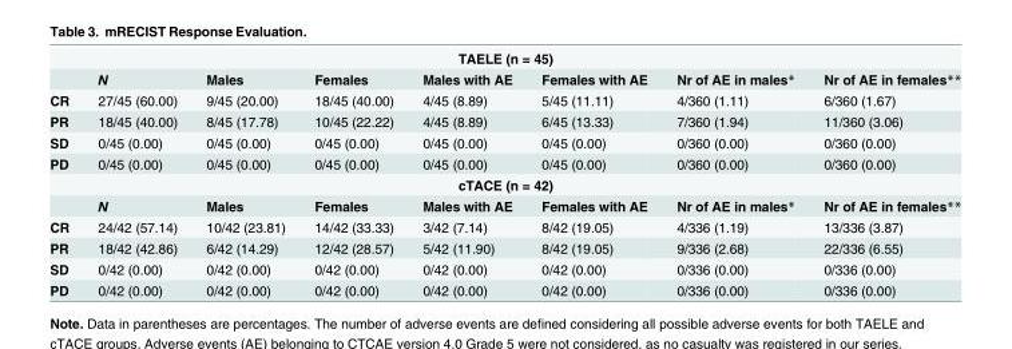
<table><tbody><tr><td colspan="8">TAELE (n = 45)</td></tr><tr><td></td><td>N</td><td>Males</td><td>Females</td><td>Males with AE</td><td>Females with AE</td><td>Nr of AE in males*</td><td>Nr of AE in females**</td></tr><tr><td>CR</td><td>27/45 (60.00)</td><td>9/45 (20.00)</td><td>18/45 (40.00)</td><td>4/45 (8.89)</td><td>5/45 (11.11)</td><td>4/360 (1.11)</td><td>6/360 (1.67)</td></tr><tr><td>PR</td><td>18/45 (40.00)</td><td>8/45 (17.78)</td><td>10/45 (22.22)</td><td>4/45 (8.89)</td><td>6/45 (13.33)</td><td>7/360 (1.94)</td><td>11/360 (3.06)</td></tr><tr><td>SD</td><td>0/45 (0.00)</td><td>0/45 (0.00)</td><td>0/45 (0.00)</td><td>0/45 (0.00)</td><td>0/45 (0.00)</td><td>0/360 (0.00)</td><td>0/360 (0.00)</td></tr><tr><td>PD</td><td>0/45 (0.00)</td><td>0/45 (0.00)</td><td>0/45 (0.00)</td><td>0/45 (0.00)</td><td>0/45 (0.00)</td><td>0/360 (0.00)</td><td>0/360 (0.00)</td></tr><tr><td colspan="8">cTACE (n = 42)</td></tr><tr><td></td><td>N</td><td>Males</td><td>Females</td><td>Males with AE</td><td>Females with AE</td><td>Nr of AE in males*</td><td>Nr of AE in females**</td></tr><tr><td>CR</td><td>24/42 (57.14)</td><td>10/42 (23.81)</td><td>14/42 (33.33)</td><td>3/42 (7.14)</td><td>8/42 (19.05)</td><td>4/336 (1.19)</td><td>13/336 (3.87)</td></tr><tr><td>PR</td><td>18/42 (42.86)</td><td>6/42 (14.29)</td><td>12/42 (28.57)</td><td>5/42 (11.90)</td><td>8/42 (19.05)</td><td>9/336 (2.68)</td><td>22/336 (6.55)</td></tr><tr><td>SD</td><td>0/42 (0.00)</td><td>0/42 (0.00)</td><td>0/42 (0.00)</td><td>0/42 (0.00)</td><td>0/42 (0.00)</td><td>0/336 (0.00)</td><td>0/336 (0.00)</td></tr><tr><td>PD</td><td>0/42 (0.00)</td><td>0/42 (0.00)</td><td>0/42 (0.00)</td><td>0/42 (0.00)</td><td>0/42 (0.00)</td><td>0/336 (0.00)</td><td>0/336 (0.00)</td></tr></tbody></table>